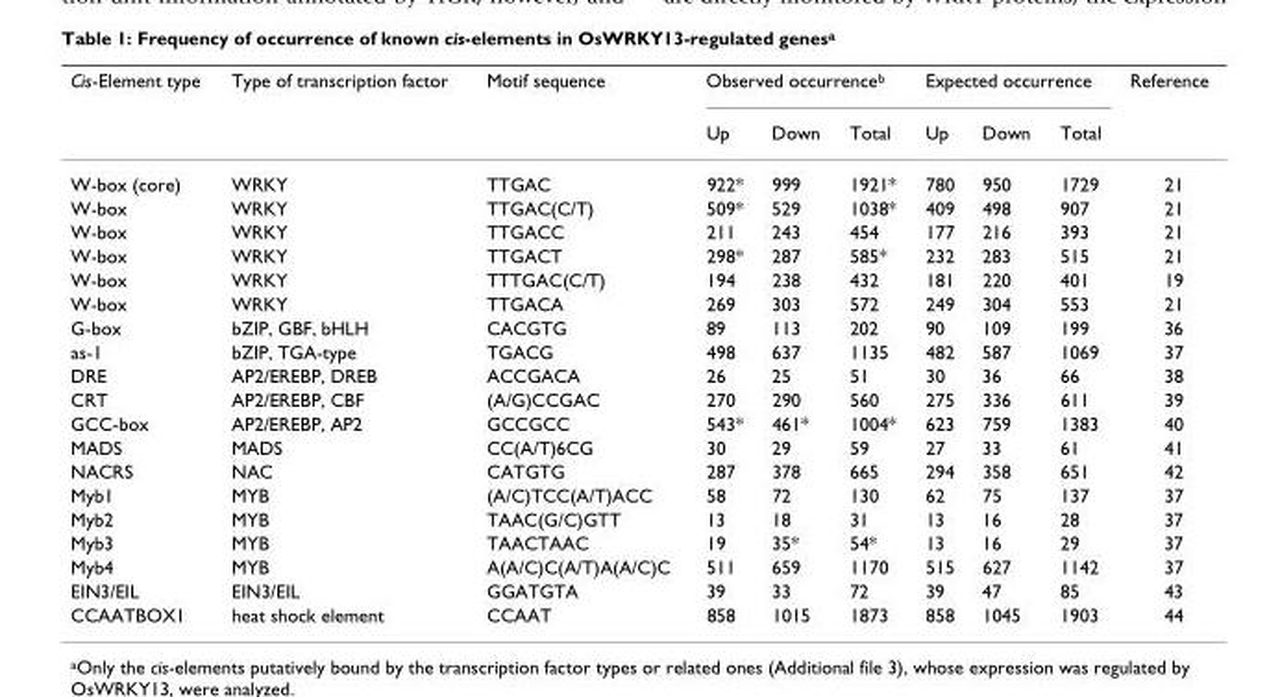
<table><thead><tr><td rowspan="2">Cis-Element type</td><td rowspan="2">Type of transcription factor</td><td rowspan="2">Motif sequence</td><td colspan="3">Observed occurrence<sup>b</sup></td><td colspan="3">Expected occurrence</td><td rowspan="2">Reference</td></tr><tr><td>Up</td><td>Down</td><td>Total</td><td>Up</td><td>Down</td><td>Total</td></tr></thead><tbody><tr><td>W-box (core)</td><td>WRKY</td><td>TTGAC</td><td>922*</td><td>999</td><td>1921*</td><td>780</td><td>950</td><td>1729</td><td>21</td></tr><tr><td>W-box</td><td>WRKY</td><td>TTGAC(C/T)</td><td>509*</td><td>529</td><td>1038*</td><td>409</td><td>498</td><td>907</td><td>21</td></tr><tr><td>W-box</td><td>WRKY</td><td>TTGACC</td><td>211</td><td>243</td><td>454</td><td>177</td><td>216</td><td>393</td><td>21</td></tr><tr><td>W-box</td><td>WRKY</td><td>TTGACT</td><td>298*</td><td>287</td><td>585*</td><td>232</td><td>283</td><td>515</td><td>21</td></tr><tr><td>W-box</td><td>WRKY</td><td>TTTGAC(C/T)</td><td>194</td><td>238</td><td>432</td><td>181</td><td>220</td><td>401</td><td>19</td></tr><tr><td>W-box</td><td>WRKY</td><td>TTGACA</td><td>269</td><td>303</td><td>572</td><td>249</td><td>304</td><td>553</td><td>21</td></tr><tr><td>G-box</td><td>bZIP, GBF, bHLH</td><td>CACGTG</td><td>89</td><td>113</td><td>202</td><td>90</td><td>109</td><td>199</td><td>36</td></tr><tr><td>as-1</td><td>bZIP, TGA-type</td><td>TGACG</td><td>498</td><td>637</td><td>1135</td><td>482</td><td>587</td><td>1069</td><td>37</td></tr><tr><td>DRE</td><td>AP2/EREBP, DREB</td><td>ACCGACA</td><td>26</td><td>25</td><td>51</td><td>30</td><td>36</td><td>66</td><td>38</td></tr><tr><td>CRT</td><td>AP2/EREBP, CBF</td><td>(A/G)CCGAC</td><td>270</td><td>290</td><td>560</td><td>275</td><td>336</td><td>611</td><td>39</td></tr><tr><td>GCC-box</td><td>AP2/EREBP, AP2</td><td>GCCGCC</td><td>543*</td><td>461*</td><td>1004*</td><td>623</td><td>759</td><td>1383</td><td>40</td></tr><tr><td>MADS</td><td>MADS</td><td>CC(A/T)6CG</td><td>30</td><td>29</td><td>59</td><td>27</td><td>33</td><td>61</td><td>41</td></tr><tr><td>NACRS</td><td>NAC</td><td>CATGTG</td><td>287</td><td>378</td><td>665</td><td>294</td><td>358</td><td>651</td><td>42</td></tr><tr><td>Myb1</td><td>MYB</td><td>(A/C)TCC(A/T)ACC</td><td>58</td><td>72</td><td>130</td><td>62</td><td>75</td><td>137</td><td>37</td></tr><tr><td>Myb2</td><td>MYB</td><td>TAAC(G/C)GTT</td><td>13</td><td>18</td><td>31</td><td>13</td><td>16</td><td>28</td><td>37</td></tr><tr><td>Myb3</td><td>MYB</td><td>TAACTAAC</td><td>19</td><td>35*</td><td>54*</td><td>13</td><td>16</td><td>29</td><td>37</td></tr><tr><td>Myb4</td><td>MYB</td><td>A(A/C)C(A/T)A(A/C)C</td><td>511</td><td>659</td><td>1170</td><td>515</td><td>627</td><td>1142</td><td>37</td></tr><tr><td>EIN3/EIL</td><td>EIN3/EIL</td><td>GGATGTA</td><td>39</td><td>33</td><td>72</td><td>39</td><td>47</td><td>85</td><td>43</td></tr><tr><td>CCAATBOX1</td><td>heat shock element</td><td>CCAAT</td><td>858</td><td>1015</td><td>1873</td><td>858</td><td>1045</td><td>1903</td><td>44</td></tr></tbody></table>